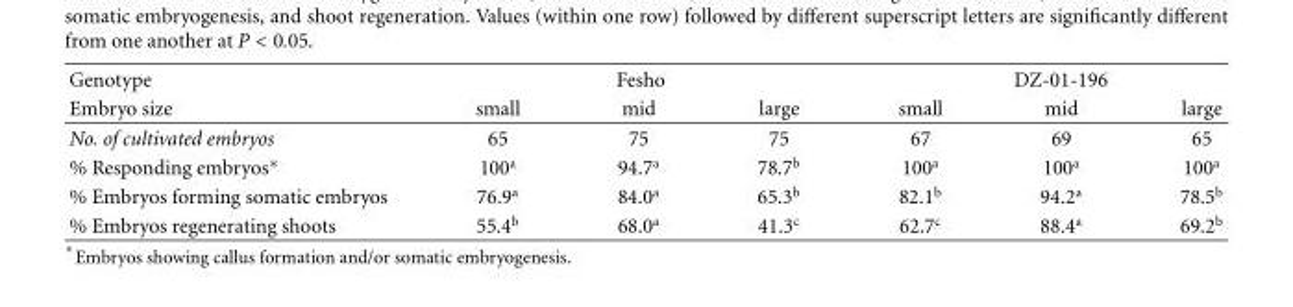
<table><thead><tr><td rowspan="2">Genotype Embryo size</td><td colspan="3">Fesho</td><td colspan="3">DZ-01-196</td></tr><tr><td>small</td><td>mid</td><td>large</td><td>small</td><td>mid</td><td>large</td></tr></thead><tbody><tr><td>No. of cultivated embryos</td><td>65</td><td>75</td><td>75</td><td>67</td><td>69</td><td>65</td></tr><tr><td>% Responding embryos∗</td><td>100<sup>a</sup></td><td>94.7<sup>a</sup></td><td>78.7<sup>b</sup></td><td>100<sup>a</sup></td><td>100<sup>a</sup></td><td>100<sup>a</sup></td></tr><tr><td>% Embryos forming somatic embryos</td><td>76.9<sup>a</sup></td><td>84.0<sup>a</sup></td><td>65.3<sup>b</sup></td><td>82.1<sup>b</sup></td><td>94.2<sup>a</sup></td><td>78.5<sup>b</sup></td></tr><tr><td>% Embryos regenerating shoots</td><td>55.4<sup>b</sup></td><td>68.0<sup>a</sup></td><td>41.3<sup>c</sup></td><td>62.7<sup>c</sup></td><td>88.4<sup>a</sup></td><td>69.2<sup>b</sup></td></tr></tbody></table>